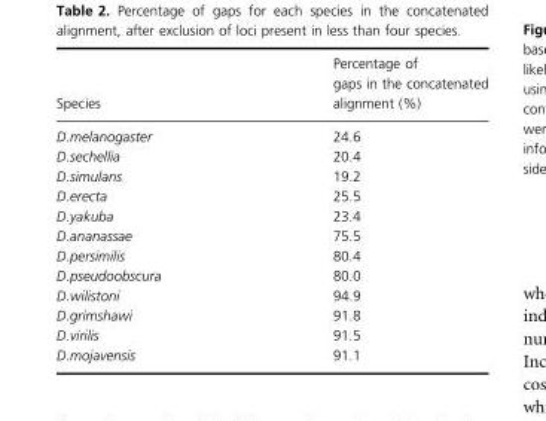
<table><thead><tr><td>Species</td><td>Percentage of gaps in the concatenated alignment (%)</td></tr></thead><tbody><tr><td>D.melanogaster</td><td>24.6</td></tr><tr><td>D.sechellia</td><td>20.4</td></tr><tr><td>D.simulans</td><td>19.2</td></tr><tr><td>D.erecta</td><td>25.5</td></tr><tr><td>D.yakuba</td><td>23.4</td></tr><tr><td>D.ananassae</td><td>75.5</td></tr><tr><td>D.persimilis</td><td>80.4</td></tr><tr><td>D.pseudoobscura</td><td>80.0</td></tr><tr><td>D.wilistoni</td><td>94.9</td></tr><tr><td>D.grimshawi</td><td>91.8</td></tr><tr><td>D.virilis</td><td>91.5</td></tr><tr><td>D.mojavensis</td><td>91.1</td></tr></tbody></table>